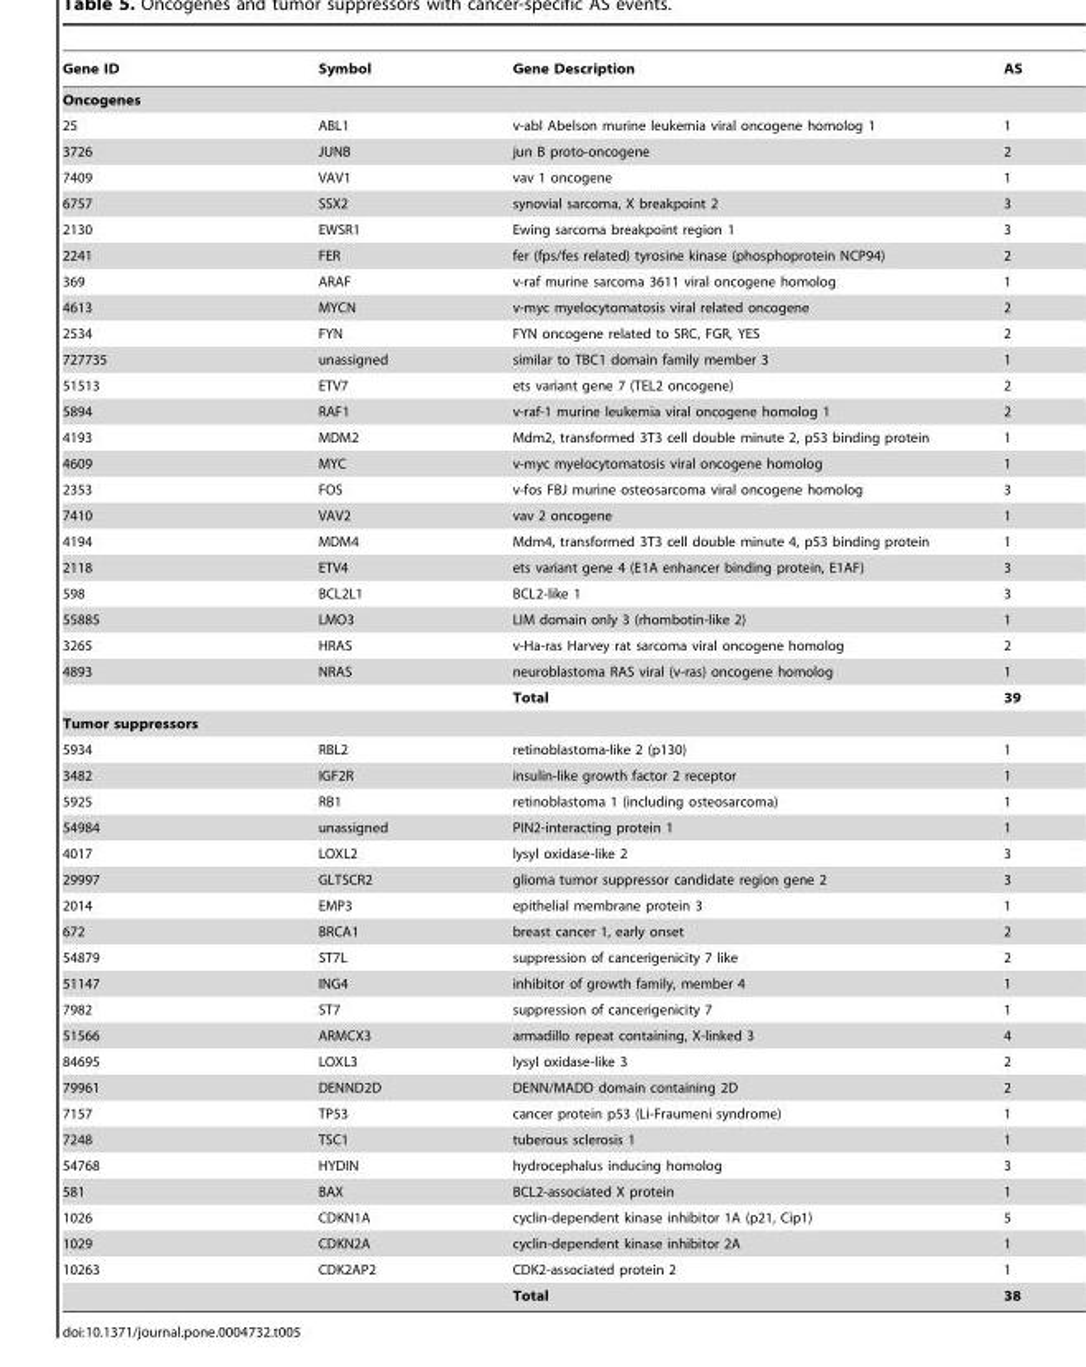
<table><thead><tr><td>Gene ID</td><td>Symbol</td><td>Gene Description</td><td>AS</td></tr></thead><tbody><tr><td colspan="4">Oncogenes</td></tr><tr><td>25</td><td>ABL1</td><td>v-abl Abelson murine leukemia viral oncogene homolog 1</td><td>1</td></tr><tr><td>3726</td><td>JUNB</td><td>jun B proto-oncogene</td><td>2</td></tr><tr><td>7409</td><td>VAV1</td><td>vav 1 oncogene</td><td>1</td></tr><tr><td>6757</td><td>SSX2</td><td>synovial sarcoma, X breakpoint 2</td><td>3</td></tr><tr><td>2130</td><td>EWSR1</td><td>Ewing sarcoma breakpoint region 1</td><td>3</td></tr><tr><td>2241</td><td>FER</td><td>fer (fps/fes related) tyrosine kinase (phosphoprotein NCP94)</td><td>2</td></tr><tr><td>369</td><td>ARAF</td><td>v-raf murine sarcoma 3611 viral oncogene homolog</td><td>1</td></tr><tr><td>4613</td><td>MYCN</td><td>v-myc myelocytomatosis viral related oncogene</td><td>2</td></tr><tr><td>2534</td><td>FYN</td><td>FYN oncogene related to SRC, FGR, YES</td><td>2</td></tr><tr><td>727735</td><td>unassigned</td><td>similar to TBC1 domain family member 3</td><td>1</td></tr><tr><td>51513</td><td>ETV7</td><td>ets variant gene 7 (TEL2 oncogene)</td><td>2</td></tr><tr><td>5894</td><td>RAF1</td><td>v-raf-1 murine leukemia viral oncogene homolog 1</td><td>2</td></tr><tr><td>4193</td><td>MDM2</td><td>Mdm2, transformed 3T3 cell double minute 2, p53 binding protein</td><td>1</td></tr><tr><td>4609</td><td>MYC</td><td>v-myc myelocytomatosis viral oncogene homolog</td><td>1</td></tr><tr><td>2353</td><td>FOS</td><td>v-fos FBJ murine osteosarcoma viral oncogene homolog</td><td>3</td></tr><tr><td>7410</td><td>VAV2</td><td>vav 2 oncogene</td><td>1</td></tr><tr><td>4194</td><td>MDM4</td><td>Mdm4, transformed 3T3 cell double minute 4, p53 binding protein</td><td>1</td></tr><tr><td>2118</td><td>ETV4</td><td>ets variant gene 4 (E1A enhancer binding protein, E1AF)</td><td>3</td></tr><tr><td>598</td><td>BCL2L1</td><td>BCL2-like 1</td><td>3</td></tr><tr><td>55885</td><td>LMO3</td><td>LIM domain only 3 (rhombotin-like 2)</td><td>1</td></tr><tr><td>3265</td><td>HRAS</td><td>v-Ha-ras Harvey rat sarcoma viral oncogene homolog</td><td>2</td></tr><tr><td rowspan="2">4893</td><td>NRAS</td><td>neuroblastoma RAS viral (v-ras) oncogene homolog</td><td>1</td></tr><tr><td></td><td>Total</td><td>39</td></tr><tr><td colspan="4">Tumor suppressors</td></tr><tr><td>5934</td><td>RBL2</td><td>retinoblastoma-like 2 (p130)</td><td>1</td></tr><tr><td>3482</td><td>IGF2R</td><td>insulin-like growth factor 2 receptor</td><td>1</td></tr><tr><td>5925</td><td>RB1</td><td>retinoblastoma 1 (including osteosarcoma)</td><td>1</td></tr><tr><td>54984</td><td>unassigned</td><td>PIN2-interacting protein 1</td><td>1</td></tr><tr><td>4017</td><td>LOXL2</td><td>lysyl oxidase-like 2</td><td>3</td></tr><tr><td>29997</td><td>GLTSCR2</td><td>glioma tumor suppressor candidate region gene 2</td><td>3</td></tr><tr><td>2014</td><td>EMP3</td><td>epithelial membrane protein 3</td><td>1</td></tr><tr><td>672</td><td>BRCA1</td><td>breast cancer 1, early onset</td><td>2</td></tr><tr><td>54879</td><td>ST7L</td><td>suppression of cancerigenicity 7 like</td><td>2</td></tr><tr><td>51147</td><td>ING4</td><td>inhibitor of growth family, member 4</td><td>1</td></tr><tr><td>7982</td><td>ST7</td><td>suppression of cancerigenicity 7</td><td>1</td></tr><tr><td>51566</td><td>ARMCX3</td><td>armadillo repeat containing, X-linked 3</td><td>4</td></tr><tr><td>84695</td><td>LOXL3</td><td>lysyl oxidase-like 3</td><td>2</td></tr><tr><td>79961</td><td>DENND2D</td><td>DENN/MADD domain containing 2D</td><td>2</td></tr><tr><td>7157</td><td>TP53</td><td>cancer protein p53 (Li-Fraumeni syndrome)</td><td>1</td></tr><tr><td>7248</td><td>TSC1</td><td>tuberous sclerosis 1</td><td>1</td></tr><tr><td>54768</td><td>HYDIN</td><td>hydrocephalus inducing homolog</td><td>3</td></tr><tr><td>581</td><td>BAX</td><td>BCL2-associated X protein</td><td>1</td></tr><tr><td>1026</td><td>CDKN1A</td><td>cyclin-dependent kinase inhibitor 1A (p21, Cip1)</td><td>5</td></tr><tr><td>1029</td><td>CDKN2A</td><td>cyclin-dependent kinase inhibitor 2A</td><td>1</td></tr><tr><td rowspan="2">10263</td><td>CDK2AP2</td><td>CDK2-associated protein 2</td><td>1</td></tr><tr><td></td><td>Total</td><td>38</td></tr></tbody></table>